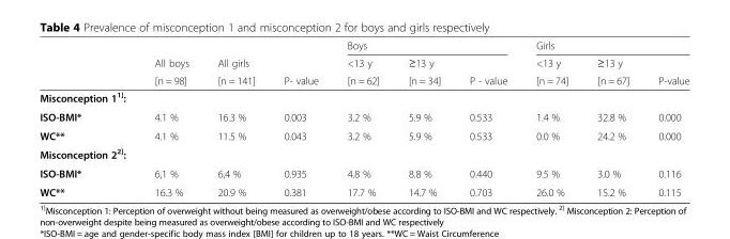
<table><thead><tr><td rowspan="3"></td><td rowspan="3">All boys [n = 98]</td><td rowspan="3">All girls [n = 141]</td><td rowspan="3">P- value</td><td colspan="3">Boys</td><td colspan="3">Girls</td></tr><tr><td rowspan="2">&lt;13 y [n = 62]</td><td rowspan="2">≥13 y [n = 34]</td><td rowspan="2">P - value</td><td rowspan="2">&lt;13 y [n = 74]</td><td rowspan="2">≥13 y [n = 67]</td><td rowspan="2">P-value</td></tr><tr></tr></thead><tbody><tr><td colspan="10">Misconception 1<sup>1]</sup>:</td></tr><tr><td>ISO-BMI*</td><td>4.1 %</td><td>16.3 %</td><td>0.003</td><td>3.2 %</td><td>5.9 %</td><td>0.533</td><td>1.4 %</td><td>32.8 %</td><td>0.000</td></tr><tr><td>WC**</td><td>4.1 %</td><td>11.5 %</td><td>0.043</td><td>3.2 %</td><td>5.9 %</td><td>0.533</td><td>0.0 %</td><td>24.2 %</td><td>0.000</td></tr><tr><td colspan="10">Misconception 2<sup>2]</sup>:</td></tr><tr><td>ISO-BMI*</td><td>6,1 %</td><td>6,4 %</td><td>0.935</td><td>4.8 %</td><td>8.8 %</td><td>0.440</td><td>9.5 %</td><td>3.0 %</td><td>0.116</td></tr><tr><td>WC**</td><td>16.3 %</td><td>20.9 %</td><td>0.381</td><td>17.7 %</td><td>14.7 %</td><td>0.703</td><td>26.0 %</td><td>15.2 %</td><td>0.115</td></tr></tbody></table>